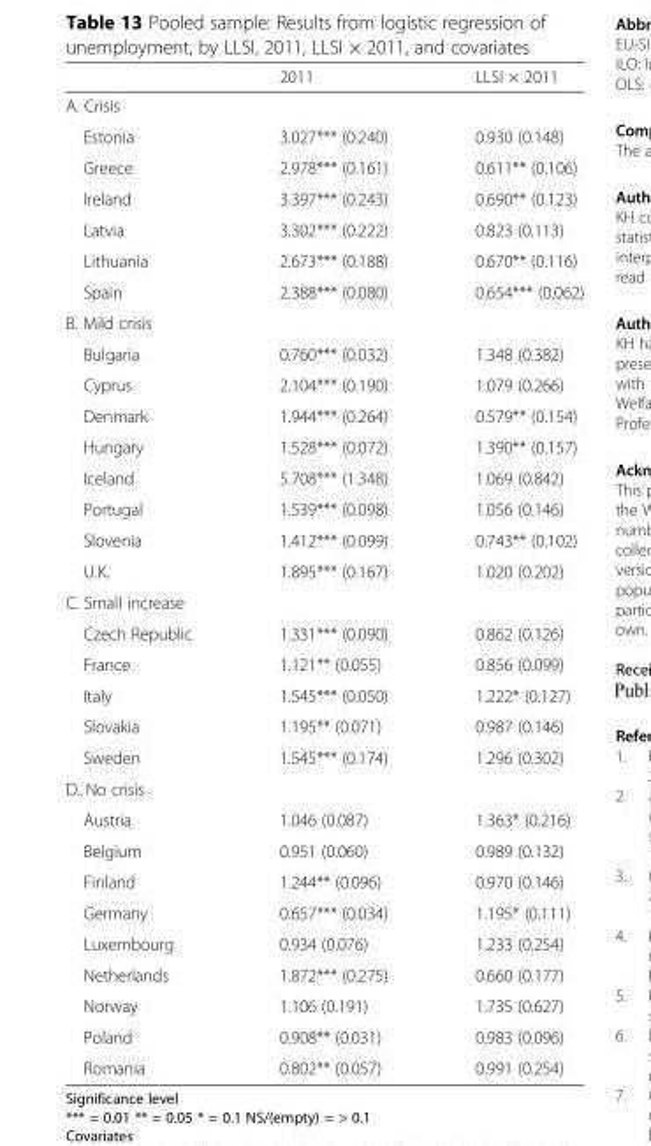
<table><thead><tr><td></td><td>2011</td><td>LLSI × 2011</td></tr></thead><tbody><tr><td colspan="3">A. Crisis</td></tr><tr><td>Estonia</td><td>3.027*** (0.240)</td><td>0.930 (0.148)</td></tr><tr><td>Greece</td><td>2.978*** (0.161)</td><td>0.611** (0.106)</td></tr><tr><td>Ireland</td><td>3.397*** (0.243)</td><td>0.690** (0.123)</td></tr><tr><td>Latvia</td><td>3.302*** (0.222)</td><td>0.823 (0.113)</td></tr><tr><td>Lithuania</td><td>2.673*** (0.188)</td><td>0.670** (0.116)</td></tr><tr><td>Spain</td><td>2.388*** (0.080)</td><td>0.654*** (0.062)</td></tr><tr><td colspan="3">B. Mild crisis</td></tr><tr><td>Bulgaria</td><td>0.760*** (0.032)</td><td>1.348 (0.382)</td></tr><tr><td>Cyprus</td><td>2.104*** (0.190)</td><td>1.079 (0.266)</td></tr><tr><td>Denmark</td><td>1.944*** (0.264)</td><td>0.579** (0.154)</td></tr><tr><td>Hungary</td><td>1.528*** (0.072)</td><td>1.390** (0.157)</td></tr><tr><td>Iceland</td><td>5.708*** (1.348)</td><td>1.069 (0.842)</td></tr><tr><td>Portugal</td><td>1.539*** (0.098)</td><td>1.056 (0.146)</td></tr><tr><td>Slovenia</td><td>1.412*** (0.099)</td><td>0.743** (0.102)</td></tr><tr><td>U.K.</td><td>1.895*** (0.167)</td><td>1.020 (0.202)</td></tr><tr><td colspan="3">C. Small increase</td></tr><tr><td>Czech Republic</td><td>1.331*** (0.090)</td><td>0.862 (0.126)</td></tr><tr><td>France</td><td>1.121** (0.055)</td><td>0.856 (0.099)</td></tr><tr><td>Italy</td><td>1.545*** (0.050)</td><td>1.222* (0.127)</td></tr><tr><td>Slovakia</td><td>1.195** (0.071)</td><td>0.987 (0.146)</td></tr><tr><td>Sweden</td><td>1.545*** (0.174)</td><td>1.296 (0.302)</td></tr><tr><td colspan="3">D. No crisis</td></tr><tr><td>Austria</td><td>1.046 (0.087)</td><td>1.363* (0.216)</td></tr><tr><td>Belgium</td><td>0.951 (0.060)</td><td>0.989 (0.132)</td></tr><tr><td>Finland</td><td>1.244** (0.096)</td><td>0.970 (0.146)</td></tr><tr><td>Germany</td><td>0.657*** (0.034)</td><td>1.195* (0.111)</td></tr><tr><td>Luxembourg</td><td>0.934 (0.076)</td><td>1.233 (0.254)</td></tr><tr><td>Netherlands</td><td>1.872*** (0.275)</td><td>0.660 (0.177)</td></tr><tr><td>Norway</td><td>1.106 (0.191)</td><td>1.735 (0.627)</td></tr><tr><td>Poland</td><td>0.908** (0.031)</td><td>0.983 (0.096)</td></tr><tr><td>Romania</td><td>0.802** (0.057)</td><td>0.991 (0.254)</td></tr></tbody></table>